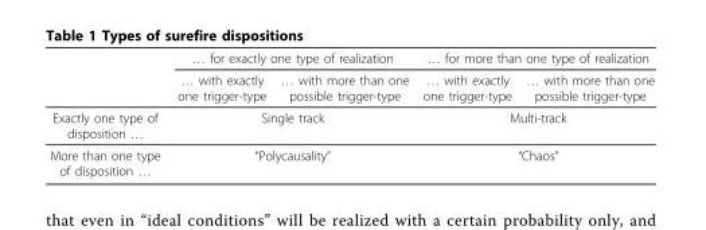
<table><thead><tr><td rowspan="2"></td><td colspan="2">… for exactly one type of realization</td><td colspan="2">… for more than one type of realization</td></tr><tr><td>… with exactly one trigger-type</td><td>… with more than one possible trigger-type</td><td>… with exactly one trigger-type</td><td>… with more than one possible trigger-type</td></tr></thead><tbody><tr><td>Exactly one type of disposition …</td><td colspan="2">Single track</td><td colspan="2">Multi-track</td></tr><tr><td>More than one type of disposition …</td><td colspan="2">“Polycausality”</td><td colspan="2">“Chaos”</td></tr></tbody></table>